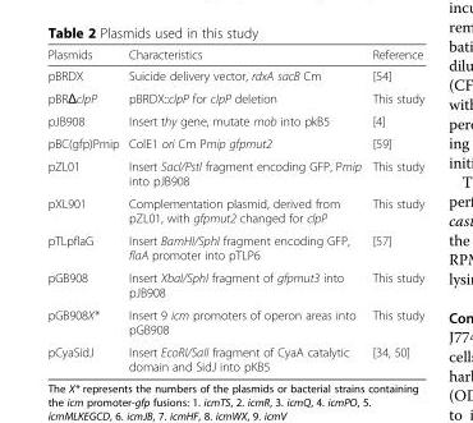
<table><thead><tr><td>Plasmids</td><td>Characteristics</td><td>Reference</td></tr></thead><tbody><tr><td>pBRDX</td><td>Suicide delivery vector, rdxA sacB Cm</td><td>[54]</td></tr><tr><td>pBRΔclpP</td><td>pBRDX::clpP for clpP deletion</td><td>This study</td></tr><tr><td>pJB908</td><td>Insert thy gene, mutate mob into pkB5</td><td>[4]</td></tr><tr><td>pBC(gfp)Pmip</td><td>ColE1 ori Cm Pmip gfpmut2</td><td>[59]</td></tr><tr><td>pZL01</td><td>Insert SacI/PstI fragment encoding GFP, Pmip into pJB908</td><td>This study</td></tr><tr><td>pXL901</td><td>Complementation plasmid, derived from pZL01, with gfpmut2 changed for clpP</td><td>This study</td></tr><tr><td>pTLpflaG</td><td>Insert BamHI/SphI fragment encoding GFP, flaA promoter into pTLP6</td><td>[57]</td></tr><tr><td>pGB908</td><td>Insert XbaI/SphI fragment of gfpmut3 into pJB908</td><td>This study</td></tr><tr><td>pGB908X*</td><td>Insert 9 icm promoters of operon areas into pGB908</td><td>This study</td></tr><tr><td>pCyaSidJ</td><td>Insert EcoRI/SalI fragment of CyaA catalytic domain and SidJ into pKB5</td><td>[34, 50]</td></tr></tbody></table>